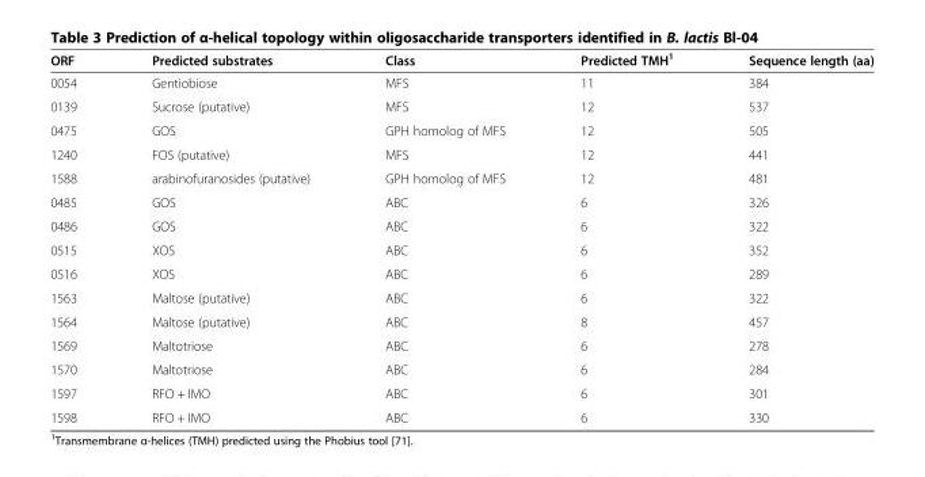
<table><thead><tr><td>ORF</td><td>Predicted substrates</td><td>Class</td><td>Predicted TMH<sup>1</sup></td><td>Sequence length (aa)</td></tr></thead><tbody><tr><td>0054</td><td>Gentiobiose</td><td>MFS</td><td>11</td><td>384</td></tr><tr><td>0139</td><td>Sucrose (putative)</td><td>MFS</td><td>12</td><td>537</td></tr><tr><td>0475</td><td>GOS</td><td>GPH homolog of MFS</td><td>12</td><td>505</td></tr><tr><td>1240</td><td>FOS (putative)</td><td>MFS</td><td>12</td><td>441</td></tr><tr><td>1588</td><td>arabinofuranosides (putative)</td><td>GPH homolog of MFS</td><td>12</td><td>481</td></tr><tr><td>0485</td><td>GOS</td><td>ABC</td><td>6</td><td>326</td></tr><tr><td>0486</td><td>GOS</td><td>ABC</td><td>6</td><td>322</td></tr><tr><td>0515</td><td>XOS</td><td>ABC</td><td>6</td><td>352</td></tr><tr><td>0516</td><td>XOS</td><td>ABC</td><td>6</td><td>289</td></tr><tr><td>1563</td><td>Maltose (putative)</td><td>ABC</td><td>6</td><td>322</td></tr><tr><td>1564</td><td>Maltose (putative)</td><td>ABC</td><td>8</td><td>457</td></tr><tr><td>1569</td><td>Maltotriose</td><td>ABC</td><td>6</td><td>278</td></tr><tr><td>1570</td><td>Maltotriose</td><td>ABC</td><td>6</td><td>284</td></tr><tr><td>1597</td><td>RFO + IMO</td><td>ABC</td><td>6</td><td>301</td></tr><tr><td>1598</td><td>RFO + IMO</td><td>ABC</td><td>6</td><td>330</td></tr></tbody></table>